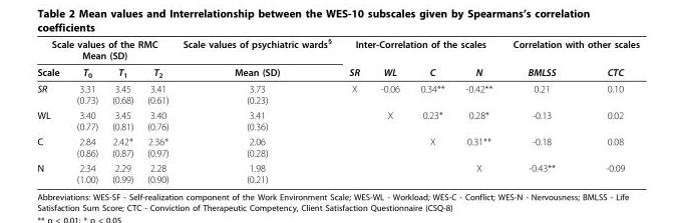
<table><thead><tr><td colspan="4">Scale values of the RMC Mean (SD)</td><td rowspan="2">Scale values of psychiatric wards<sup>§</sup> Mean (SD)</td><td colspan="4">Inter-Correlation of the scales</td><td colspan="2">Correlation with other scales</td></tr><tr><td>Scale</td><td>T<sub>0</sub></td><td>T<sub>1</sub></td><td>T<sub>2</sub></td><td>SR</td><td>WL</td><td>C</td><td>N</td><td>BMLSS</td><td>CTC</td></tr></thead><tbody><tr><td>SR</td><td>3.31 (0.73)</td><td>3.45 (0.68)</td><td>3.41 (0.61)</td><td>3.73 (0.23)</td><td>X</td><td>-0.06</td><td>0.34**</td><td>-0.42**</td><td>0.21</td><td>0.10</td></tr><tr><td>WL</td><td>3.40 (0.77)</td><td>3.45 (0.81)</td><td>3.40 (0.76)</td><td>3.41 (0.36)</td><td></td><td>X</td><td>0.23*</td><td>0.28*</td><td>-0.13</td><td>0.02</td></tr><tr><td>C</td><td>2.84 (0.86)</td><td>2.42* (0.87)</td><td>2.36* (0.97)</td><td>2.06 (0.28)</td><td></td><td></td><td>X</td><td>0.31**</td><td>-0.18</td><td>0.08</td></tr><tr><td>N</td><td>2.34 (1.00)</td><td>2.29 (0.99)</td><td>2.28 (0.90)</td><td>1.98 (0.21)</td><td></td><td></td><td></td><td>X</td><td>-0.43**</td><td>-0.09</td></tr></tbody></table>